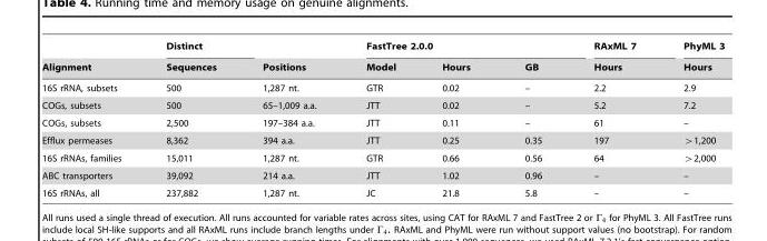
<table><thead><tr><td rowspan="2">Alignment</td><td rowspan="2">Distinct Sequences</td><td rowspan="2">Positions</td><td colspan="3">FastTree 2.0.0</td><td rowspan="2">RAxML 7 Hours</td><td rowspan="2">PhyML 3 Hours</td></tr><tr><td>Model</td><td>Hours</td><td>GB</td></tr></thead><tbody><tr><td>16S rRNA, subsets</td><td>500</td><td>1,287 nt.</td><td>GTR</td><td>0.02</td><td>–</td><td>2.2</td><td>2.9</td></tr><tr><td>COGs, subsets</td><td>500</td><td>65–1,009 a.a.</td><td>JTT</td><td>0.02</td><td>–</td><td>5.2</td><td>7.2</td></tr><tr><td>COGs, subsets</td><td>2,500</td><td>197–384 a.a.</td><td>JTT</td><td>0.11</td><td>–</td><td>61</td><td>–</td></tr><tr><td>Efflux permeases</td><td>8,362</td><td>394 a.a.</td><td>JTT</td><td>0.25</td><td>0.35</td><td>197</td><td>w1,200</td></tr><tr><td>16S rRNAs, families</td><td>15,011</td><td>1,287 nt.</td><td>GTR</td><td>0.66</td><td>0.56</td><td>64</td><td>w2,000</td></tr><tr><td>ABC transporters</td><td>39,092</td><td>214 a.a.</td><td>JTT</td><td>1.02</td><td>0.96</td><td>–</td><td>–</td></tr><tr><td>16S rRNAs, all</td><td>237,882</td><td>1,287 nt.</td><td>JC</td><td>21.8</td><td>5.8</td><td>–</td><td>–</td></tr></tbody></table>